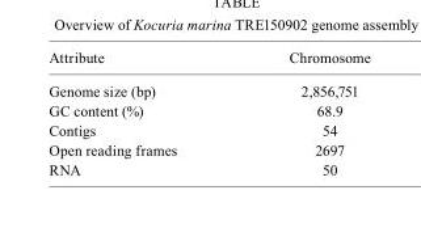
<table><thead><tr><td>Attribute</td><td>Chromosome</td></tr></thead><tbody><tr><td>Genome size (bp)</td><td>2,856,751</td></tr><tr><td>GC content (%)</td><td>68.9</td></tr><tr><td>Contigs</td><td>54</td></tr><tr><td>Open reading frames</td><td>2697</td></tr><tr><td>RNA</td><td>50</td></tr></tbody></table>